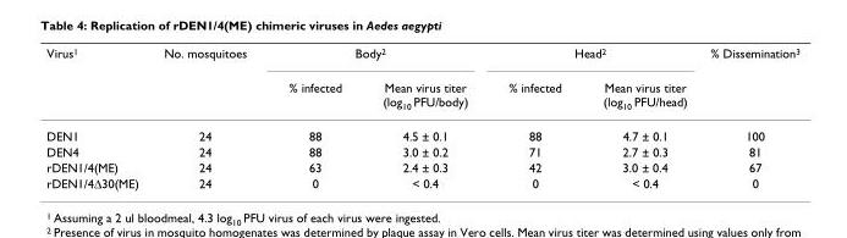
<table><thead><tr><td rowspan="2">Virus<sup>1</sup></td><td rowspan="2">No. mosquitoes</td><td colspan="2">Body<sup>2</sup></td><td colspan="2">Head<sup>2</sup></td><td rowspan="2">% Dissemination<sup>3</sup></td></tr><tr><td>% infected</td><td>Mean virus titer (log<sub>10</sub> PFU/body)</td><td>% infected</td><td>Mean virus titer (log<sub>10</sub> PFU/head)</td></tr></thead><tbody><tr><td>DEN1</td><td>24</td><td>88</td><td>4.5 ± 0.1</td><td>88</td><td>4.7 ± 0.1</td><td>100</td></tr><tr><td>DEN4</td><td>24</td><td>88</td><td>3.0 ± 0.2</td><td>71</td><td>2.7 ± 0.3</td><td>81</td></tr><tr><td>rDEN1/4(ME)</td><td>24</td><td>63</td><td>2.4 ± 0.3</td><td>42</td><td>3.0 ± 0.4</td><td>67</td></tr><tr><td>rDEN1/4Δ30(ME)</td><td>24</td><td>0</td><td>&lt; 0.4</td><td>0</td><td>&lt; 0.4</td><td>0</td></tr></tbody></table>